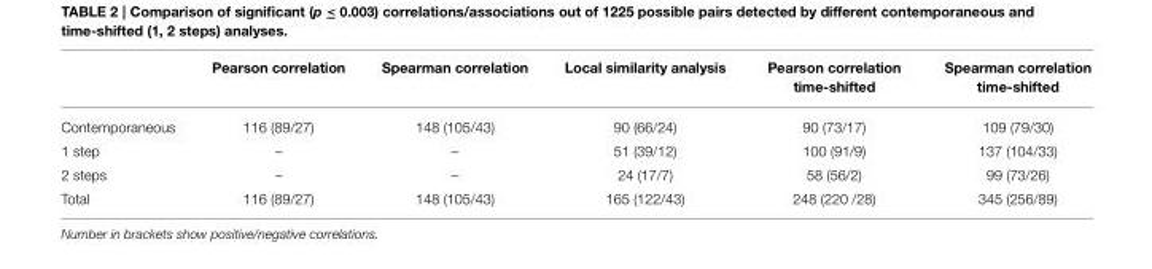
<table><thead><tr><td></td><td>Pearson correlation</td><td>Spearman correlation</td><td>Local similarity analysis</td><td>Pearson correlation time-shifted</td><td>Spearman correlation time-shifted</td></tr></thead><tbody><tr><td>Contemporaneous</td><td>116 (89/27)</td><td>148 (105/43)</td><td>90 (66/24)</td><td>90 (73/17)</td><td>109 (79/30)</td></tr><tr><td>1 step</td><td>–</td><td>–</td><td>51 (39/12)</td><td>100 (91/9)</td><td>137 (104/33)</td></tr><tr><td>2 steps</td><td>–</td><td>–</td><td>24 (17/7)</td><td>58 (56/2)</td><td>99 (73/26)</td></tr><tr><td>Total</td><td>116 (89/27)</td><td>148 (105/43)</td><td>165 (122/43)</td><td>248 (220 /28)</td><td>345 (256/89)</td></tr></tbody></table>